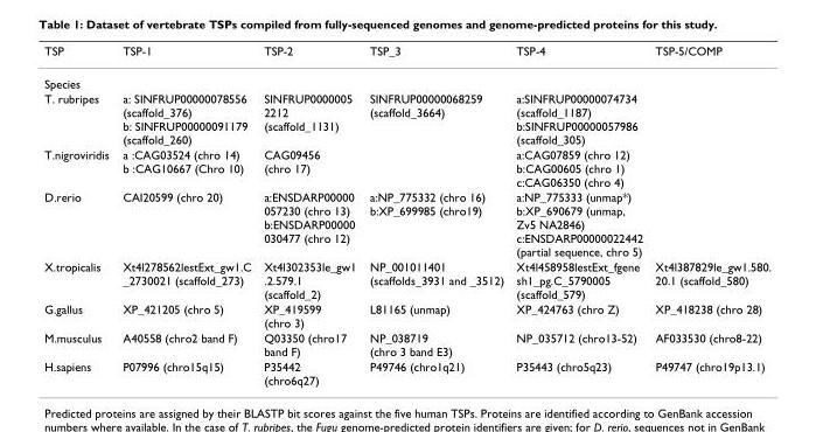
<table><thead><tr><td>TSP</td><td>TSP-1</td><td>TSP-2</td><td>TSP_3</td><td>TSP-4</td><td>TSP-5/COMP</td></tr></thead><tbody><tr><td colspan="6">Species</td></tr><tr><td>T. rubripes</td><td>a: SINFRUP00000078556 (scaffold_376) b: SINFRUP00000091179 (scaffold_260)</td><td>SINFRUP0000005 2212 (scaffold_1131)</td><td>SINFRUP00000068259 (scaffold_3664)</td><td>a:SINFRUP00000074734 (scaffold_1187) b:SINFRUP00000057986 (scaffold_305)</td><td></td></tr><tr><td>T.nigroviridis</td><td>a :CAG03524 (chro 14) b :CAG10667 (Chro 10)</td><td>CAG09456 (chro 17)</td><td></td><td>a:CAG07859 (chro 12) b:CAG00605 (chro 1) c:CAG06350 (chro 4)</td><td></td></tr><tr><td>D.rerio</td><td>CAI20599 (chro 20)</td><td>a:ENSDARP00000 057230 (chro 13) b:ENSDARP00000 030477 (chro 12)</td><td>a:NP_775332 (chro 16) b:XP_699985 (chro19)</td><td>a:NP_775333 (unmap*) b:XP_690679 (unmap, Zv5 NA2846) c:ENSDARP00000022442 (partial sequence, chro 5)</td><td></td></tr><tr><td>X.tropicalis</td><td>Xt4l278562lestExt_gw1.C _2730021 (scaffold_273)</td><td>Xt4l302353le_gw1 .2.579.1 (scaffold_2)</td><td>NP_001011401 (scaffolds_3931 and _3512)</td><td>Xt4l458958lestExt_fgene sh1_pg.C_5790005 (scaffold_579)</td><td>Xt4l387829le_gw1.580. 20.1 (scaffold_580)</td></tr><tr><td>G.gallus</td><td>XP_421205 (chro 5)</td><td>XP_419599 (chro 3)</td><td>L81165 (unmap)</td><td>XP_424763 (chro Z)</td><td>XP_418238 (chro 28)</td></tr><tr><td>M.musculus</td><td>A40558 (chro2 band F)</td><td>Q03350 (chro17 band F)</td><td>NP_038719 (chro 3 band E3)</td><td>NP_035712 (chro13-52)</td><td>AF033530 (chro8-22)</td></tr><tr><td>H.sapiens</td><td>P07996 (chro15q15)</td><td>P35442 (chro6q27)</td><td>P49746 (chro1q21)</td><td>P35443 (chro5q23)</td><td>P49747 (chro19p13.1)</td></tr></tbody></table>